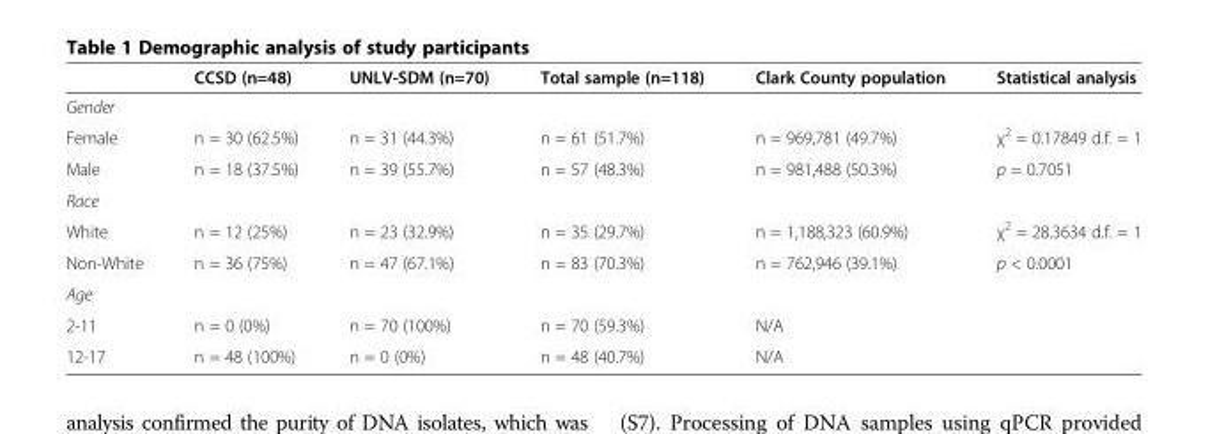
<table><thead><tr><td></td><td>CCSD (n=48)</td><td>UNLV-SDM (n=70)</td><td>Total sample (n=118)</td><td>Clark County population</td><td>Statistical analysis</td></tr></thead><tbody><tr><td colspan="6">Gender</td></tr><tr><td>Female</td><td>n = 30 (62.5%)</td><td>n = 31 (44.3%)</td><td>n = 61 (51.7%)</td><td>n = 969,781 (49.7%)</td><td>χ<sup>2</sup> = 0.17849 d.f. = 1</td></tr><tr><td>Male</td><td>n = 18 (37.5%)</td><td>n = 39 (55.7%)</td><td>n = 57 (48.3%)</td><td>n = 981,488 (50.3%)</td><td>p = 0.7051</td></tr><tr><td colspan="6">Race</td></tr><tr><td>White</td><td>n = 12 (25%)</td><td>n = 23 (32.9%)</td><td>n = 35 (29.7%)</td><td>n = 1,188,323 (60.9%)</td><td>χ<sup>2</sup> = 28.3634 d.f. = 1</td></tr><tr><td>Non-White</td><td>n = 36 (75%)</td><td>n = 47 (67.1%)</td><td>n = 83 (70.3%)</td><td>n = 762,946 (39.1%)</td><td>p &lt; 0.0001</td></tr><tr><td colspan="6">Age</td></tr><tr><td>2-11</td><td>n = 0 (0%)</td><td>n = 70 (100%)</td><td>n = 70 (59.3%)</td><td>N/A</td><td></td></tr><tr><td>12-17</td><td>n = 48 (100%)</td><td>n = 0 (0%)</td><td>n = 48 (40.7%)</td><td>N/A</td><td></td></tr></tbody></table>